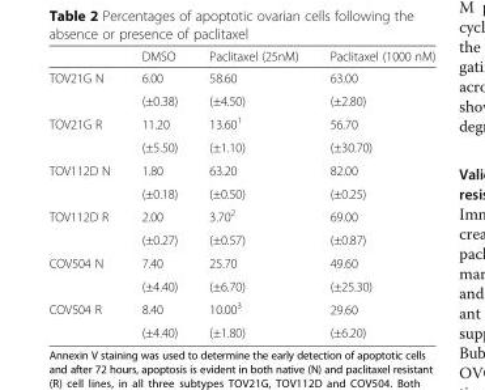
<table><thead><tr><td></td><td>DMSO</td><td>Paclitaxel (25nM)</td><td>Paclitaxel (1000 nM)</td></tr></thead><tbody><tr><td rowspan="2">TOV21G N</td><td>6.00</td><td>58.60</td><td>63.00</td></tr><tr><td>(±0.38)</td><td>(±4.50)</td><td>(±2.80)</td></tr><tr><td rowspan="2">TOV21G R</td><td>11.20</td><td>13.60<sup>1</sup></td><td>56.70</td></tr><tr><td>(±5.50)</td><td>(±1.10)</td><td>(±30.70)</td></tr><tr><td rowspan="2">TOV112D N</td><td>1.80</td><td>63.20</td><td>82.00</td></tr><tr><td>(±0.18)</td><td>(±0.50)</td><td>(±0.25)</td></tr><tr><td rowspan="2">TOV112D R</td><td>2.00</td><td>3.70<sup>2</sup></td><td>69.00</td></tr><tr><td>(±0.27)</td><td>(±0.57)</td><td>(±0.87)</td></tr><tr><td rowspan="2">COV504 N</td><td>7.40</td><td>25.70</td><td>49.60</td></tr><tr><td>(±4.40)</td><td>(±6.70)</td><td>(±25.30)</td></tr><tr><td rowspan="2">COV504 R</td><td>8.40</td><td>10.00<sup>3</sup></td><td>29.60</td></tr><tr><td>(±4.40)</td><td>(±1.80)</td><td>(±6.20)</td></tr></tbody></table>